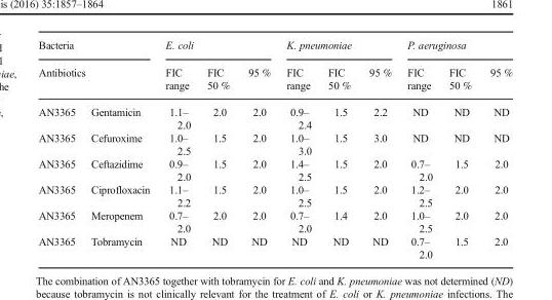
<table><thead><tr><td rowspan="2" colspan="2">Bacteria Antibiotics</td><td colspan="3">E. coli</td><td colspan="3">K. pneumoniae</td><td colspan="3">P. aeruginosa</td></tr><tr><td rowspan="2">FIC range 1.1– 2.0</td><td rowspan="2">FIC 50 % 2.0</td><td rowspan="2">95 % 2.0</td><td rowspan="2">FIC range 0.9– 2.4</td><td rowspan="2">FIC 50 % 1.5</td><td rowspan="2">95 % 2.2</td><td rowspan="2">FIC range ND</td><td rowspan="2">FIC 50 % ND</td><td rowspan="2">95 % ND</td></tr><tr><td>AN3365</td><td>Gentamicin</td></tr></thead><tbody><tr><td>AN3365</td><td>Cefuroxime</td><td>1.0– 2.5</td><td>1.5</td><td>2.0</td><td>1.0– 3.0</td><td>1.5</td><td>3.0</td><td>ND</td><td>ND</td><td>ND</td></tr><tr><td>AN3365</td><td>Ceftazidime</td><td>0.9– 2.0</td><td>1.5</td><td>2.0</td><td>1.4– 2.5</td><td>1.5</td><td>2.0</td><td>0.7– 2.0</td><td>1.5</td><td>2.0</td></tr><tr><td>AN3365</td><td>Ciprofloxacin</td><td>1.1– 2.2</td><td>1.5</td><td>2.0</td><td>1.0– 2.5</td><td>1.5</td><td>2.0</td><td>1.2– 2.5</td><td>2.0</td><td>2.0</td></tr><tr><td>AN3365</td><td>Meropenem</td><td>0.7– 2.0</td><td>2.0</td><td>2.0</td><td>0.7– 2.0</td><td>1.4</td><td>2.0</td><td>1.0– 2.5</td><td>2.0</td><td>2.0</td></tr><tr><td>AN3365</td><td>Tobramycin</td><td>ND</td><td>ND</td><td>ND</td><td>ND</td><td>ND</td><td>ND</td><td>0.7– 2.0</td><td>1.5</td><td>2.0</td></tr></tbody></table>